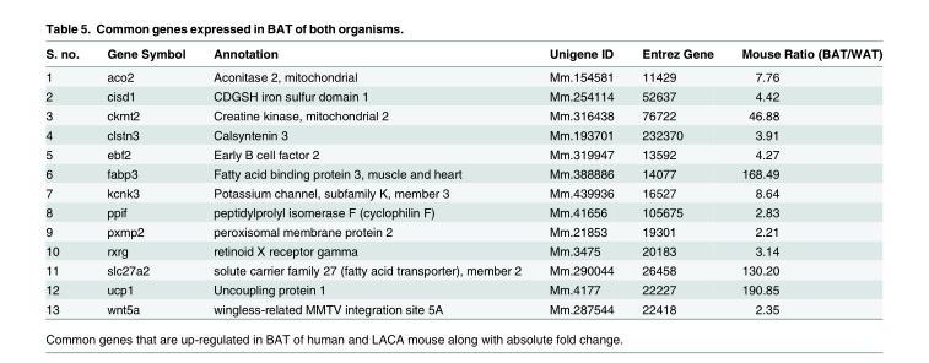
<table><thead><tr><td>S. no.</td><td>Gene Symbol</td><td>Annotation</td><td>Unigene ID</td><td>Entrez Gene</td><td>Mouse Ratio (BAT/WAT)</td></tr></thead><tbody><tr><td>1</td><td>aco2</td><td>Aconitase 2, mitochondrial</td><td>Mm.154581</td><td>11429</td><td>7.76</td></tr><tr><td>2</td><td>cisd1</td><td>CDGSH iron sulfur domain 1</td><td>Mm.254114</td><td>52637</td><td>4.42</td></tr><tr><td>3</td><td>ckmt2</td><td>Creatine kinase, mitochondrial 2</td><td>Mm.316438</td><td>76722</td><td>46.88</td></tr><tr><td>4</td><td>clstn3</td><td>Calsyntenin 3</td><td>Mm.193701</td><td>232370</td><td>3.91</td></tr><tr><td>5</td><td>ebf2</td><td>Early B cell factor 2</td><td>Mm.319947</td><td>13592</td><td>4.27</td></tr><tr><td>6</td><td>fabp3</td><td>Fatty acid binding protein 3, muscle and heart</td><td>Mm.388886</td><td>14077</td><td>168.49</td></tr><tr><td>7</td><td>kcnk3</td><td>Potassium channel, subfamily K, member 3</td><td>Mm.439936</td><td>16527</td><td>8.64</td></tr><tr><td>8</td><td>ppif</td><td>peptidylprolyl isomerase F (cyclophilin F)</td><td>Mm.41656</td><td>105675</td><td>2.83</td></tr><tr><td>9</td><td>pxmp2</td><td>peroxisomal membrane protein 2</td><td>Mm.21853</td><td>19301</td><td>2.21</td></tr><tr><td>10</td><td>rxrg</td><td>retinoid X receptor gamma</td><td>Mm.3475</td><td>20183</td><td>3.14</td></tr><tr><td>11</td><td>slc27a2</td><td>solute carrier family 27 (fatty acid transporter), member 2</td><td>Mm.290044</td><td>26458</td><td>130.20</td></tr><tr><td>12</td><td>ucp1</td><td>Uncoupling protein 1</td><td>Mm.4177</td><td>22227</td><td>190.85</td></tr><tr><td>13</td><td>wnt5a</td><td>wingless-related MMTV integration site 5A</td><td>Mm.287544</td><td>22418</td><td>2.35</td></tr></tbody></table>